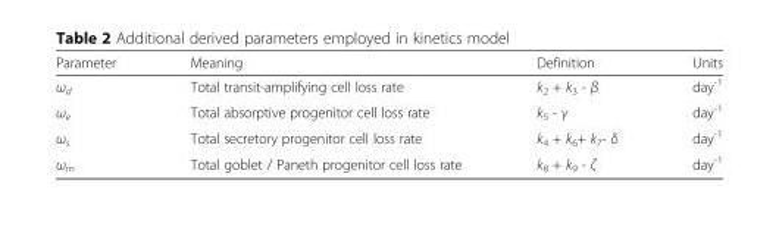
<table><thead><tr><td>Parameter</td><td>Meaning</td><td>Definition</td><td>Units</td></tr></thead><tbody><tr><td>ω<sub>d</sub></td><td>Total transit-amplifying cell loss rate</td><td>k<sub>2</sub> + k<sub>3</sub> - β</td><td>day<sup>-1</sup></td></tr><tr><td>ω<sub>e</sub></td><td>Total absorptive progenitor cell loss rate</td><td>k<sub>5</sub> - γ</td><td>day<sup>-1</sup></td></tr><tr><td>ω<sub>s</sub></td><td>Total secretory progenitor cell loss rate</td><td>k<sub>4</sub> + k<sub>6</sub>+ k<sub>7</sub>- δ</td><td>day<sup>-1</sup></td></tr><tr><td>ω<sub>m</sub></td><td>Total goblet / Paneth progenitor cell loss rate</td><td>k<sub>8</sub> + k<sub>9</sub> - ζ</td><td>day<sup>-1</sup></td></tr></tbody></table>